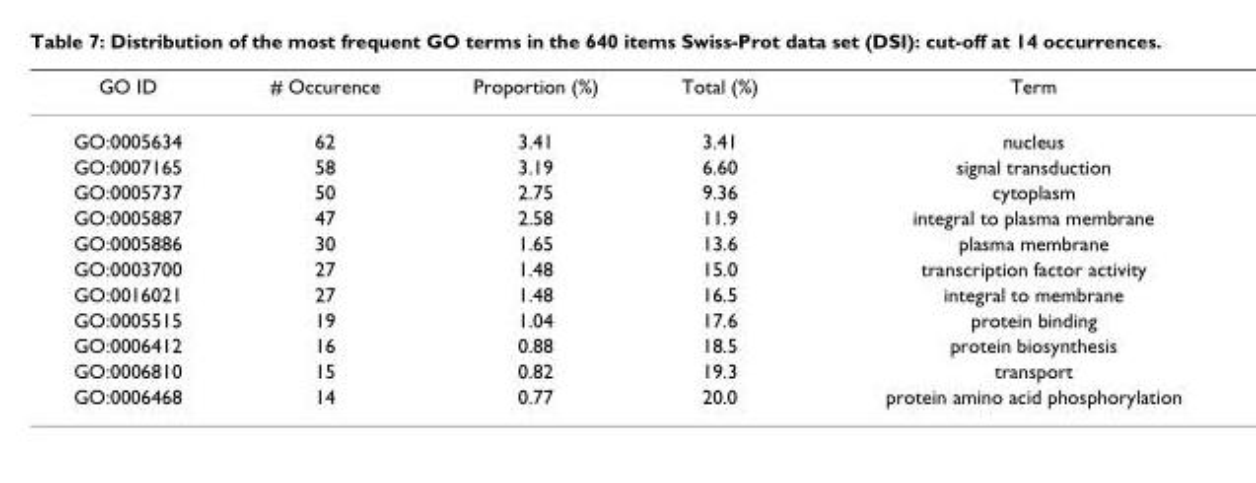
<table><thead><tr><td>GO ID</td><td># Occurence</td><td>Proportion (%)</td><td>Total (%)</td><td>Term</td></tr></thead><tbody><tr><td>GO:0005634</td><td>62</td><td>3.41</td><td>3.41</td><td>nucleus</td></tr><tr><td>GO:0007165</td><td>58</td><td>3.19</td><td>6.60</td><td>signal transduction</td></tr><tr><td>GO:0005737</td><td>50</td><td>2.75</td><td>9.36</td><td>cytoplasm</td></tr><tr><td>GO:0005887</td><td>47</td><td>2.58</td><td>11.9</td><td>integral to plasma membrane</td></tr><tr><td>GO:0005886</td><td>30</td><td>1.65</td><td>13.6</td><td>plasma membrane</td></tr><tr><td>GO:0003700</td><td>27</td><td>1.48</td><td>15.0</td><td>transcription factor activity</td></tr><tr><td>GO:0016021</td><td>27</td><td>1.48</td><td>16.5</td><td>integral to membrane</td></tr><tr><td>GO:0005515</td><td>19</td><td>1.04</td><td>17.6</td><td>protein binding</td></tr><tr><td>GO:0006412</td><td>16</td><td>0.88</td><td>18.5</td><td>protein biosynthesis</td></tr><tr><td>GO:0006810</td><td>15</td><td>0.82</td><td>19.3</td><td>transport</td></tr><tr><td>GO:0006468</td><td>14</td><td>0.77</td><td>20.0</td><td>protein amino acid phosphorylation</td></tr></tbody></table>